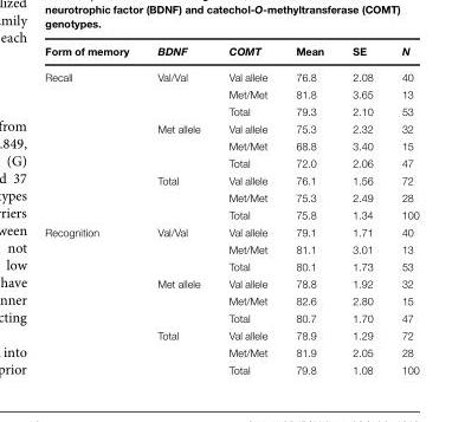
<table><thead><tr><td>Form of memory</td><td>BDNF</td><td>COMT</td><td>Mean</td><td>SE</td><td>N</td></tr></thead><tbody><tr><td rowspan="9">Recall</td><td>Val/Val</td><td>Val allele</td><td>76.8</td><td>2.08</td><td>40</td></tr><tr><td></td><td>Met/Met</td><td>81.8</td><td>3.65</td><td>13</td></tr><tr><td></td><td>Total</td><td>79.3</td><td>2.10</td><td>53</td></tr><tr><td>Met allele</td><td>Val allele</td><td>75.3</td><td>2.32</td><td>32</td></tr><tr><td></td><td>Met/Met</td><td>68.8</td><td>3.40</td><td>15</td></tr><tr><td></td><td>Total</td><td>72.0</td><td>2.06</td><td>47</td></tr><tr><td>Total</td><td>Val allele</td><td>76.1</td><td>1.56</td><td>72</td></tr><tr><td></td><td>Met/Met</td><td>75.3</td><td>2.49</td><td>28</td></tr><tr><td></td><td>Total</td><td>75.8</td><td>1.34</td><td>100</td></tr><tr><td rowspan="9">Recognition</td><td>Val/Val</td><td>Val allele</td><td>79.1</td><td>1.71</td><td>40</td></tr><tr><td></td><td>Met/Met</td><td>81.1</td><td>3.01</td><td>13</td></tr><tr><td></td><td>Total</td><td>80.1</td><td>1.73</td><td>53</td></tr><tr><td>Met allele</td><td>Val allele</td><td>78.8</td><td>1.92</td><td>32</td></tr><tr><td></td><td>Met/Met</td><td>82.6</td><td>2.80</td><td>15</td></tr><tr><td></td><td>Total</td><td>80.7</td><td>1.70</td><td>47</td></tr><tr><td>Total</td><td>Val allele</td><td>78.9</td><td>1.29</td><td>72</td></tr><tr><td></td><td>Met/Met</td><td>81.9</td><td>2.05</td><td>28</td></tr><tr><td></td><td>Total</td><td>79.8</td><td>1.08</td><td>100</td></tr></tbody></table>